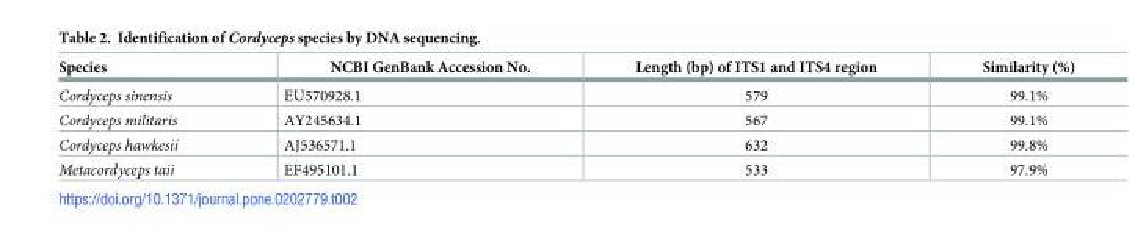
<table><thead><tr><td>Species</td><td>NCBI GenBank Accession No.</td><td>Length (bp) of ITS1 and ITS4 region</td><td>Similarity (%)</td></tr></thead><tbody><tr><td>Cordyceps sinensis</td><td>EU570928.1</td><td>579</td><td>99.1%</td></tr><tr><td>Cordyceps militaris</td><td>AY245634.1</td><td>567</td><td>99.1%</td></tr><tr><td>Cordyceps hawkesii</td><td>AJ536571.1</td><td>632</td><td>99.8%</td></tr><tr><td>Metacordyceps taii</td><td>EF495101.1</td><td>533</td><td>97.9%</td></tr></tbody></table>